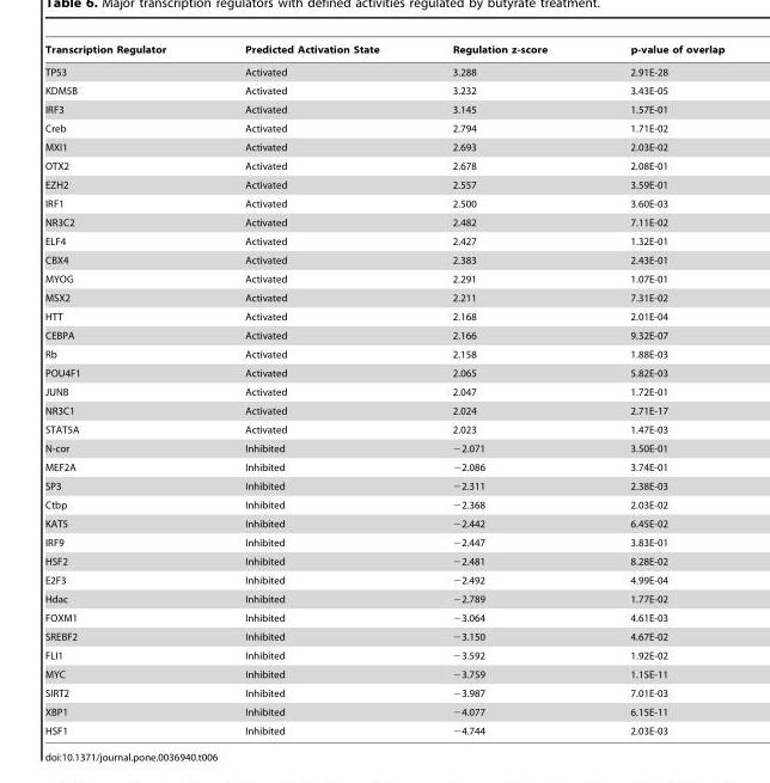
<table><thead><tr><td>Transcription Regulator</td><td>Predicted Activation State</td><td>Regulation z-score</td><td>p-value of overlap</td></tr></thead><tbody><tr><td>TP53</td><td>Activated</td><td>3.288</td><td>2.91E-28</td></tr><tr><td>KDM5B</td><td>Activated</td><td>3.232</td><td>3.43E-05</td></tr><tr><td>IRF3</td><td>Activated</td><td>3.145</td><td>1.57E-01</td></tr><tr><td>Creb</td><td>Activated</td><td>2.794</td><td>1.71E-02</td></tr><tr><td>MXI1</td><td>Activated</td><td>2.693</td><td>2.03E-02</td></tr><tr><td>OTX2</td><td>Activated</td><td>2.678</td><td>2.08E-01</td></tr><tr><td>EZH2</td><td>Activated</td><td>2.557</td><td>3.59E-01</td></tr><tr><td>IRF1</td><td>Activated</td><td>2.500</td><td>3.60E-03</td></tr><tr><td>NR3C2</td><td>Activated</td><td>2.482</td><td>7.11E-02</td></tr><tr><td>ELF4</td><td>Activated</td><td>2.427</td><td>1.32E-01</td></tr><tr><td>CBX4</td><td>Activated</td><td>2.383</td><td>2.43E-01</td></tr><tr><td>MYOG</td><td>Activated</td><td>2.291</td><td>1.07E-01</td></tr><tr><td>MSX2</td><td>Activated</td><td>2.211</td><td>7.31E-02</td></tr><tr><td>HTT</td><td>Activated</td><td>2.168</td><td>2.01E-04</td></tr><tr><td>CEBPA</td><td>Activated</td><td>2.166</td><td>9.32E-07</td></tr><tr><td>Rb</td><td>Activated</td><td>2.158</td><td>1.88E-03</td></tr><tr><td>POU4F1</td><td>Activated</td><td>2.065</td><td>5.82E-03</td></tr><tr><td>JUNB</td><td>Activated</td><td>2.047</td><td>1.72E-01</td></tr><tr><td>NR3C1</td><td>Activated</td><td>2.024</td><td>2.71E-17</td></tr><tr><td>STAT5A</td><td>Activated</td><td>2.023</td><td>1.47E-03</td></tr><tr><td>N-cor</td><td>Inhibited</td><td>−2.071</td><td>3.50E-01</td></tr><tr><td>MEF2A</td><td>Inhibited</td><td>−2.086</td><td>3.74E-01</td></tr><tr><td>SP3</td><td>Inhibited</td><td>−2.311</td><td>2.38E-03</td></tr><tr><td>Ctbp</td><td>Inhibited</td><td>−2.368</td><td>2.03E-02</td></tr><tr><td>KAT5</td><td>Inhibited</td><td>−2.442</td><td>6.45E-02</td></tr><tr><td>IRF9</td><td>Inhibited</td><td>−2.447</td><td>3.83E-01</td></tr><tr><td>HSF2</td><td>Inhibited</td><td>−2.481</td><td>8.28E-02</td></tr><tr><td>E2F3</td><td>Inhibited</td><td>−2.492</td><td>4.99E-04</td></tr><tr><td>Hdac</td><td>Inhibited</td><td>−2.789</td><td>1.77E-02</td></tr><tr><td>FOXM1</td><td>Inhibited</td><td>−3.064</td><td>4.61E-03</td></tr><tr><td>SREBF2</td><td>Inhibited</td><td>−3.150</td><td>4.67E-02</td></tr><tr><td>FLI1</td><td>Inhibited</td><td>−3.592</td><td>1.92E-02</td></tr><tr><td>MYC</td><td>Inhibited</td><td>−3.759</td><td>1.15E-11</td></tr><tr><td>SIRT2</td><td>Inhibited</td><td>−3.987</td><td>7.01E-03</td></tr><tr><td>XBP1</td><td>Inhibited</td><td>−4.077</td><td>6.15E-11</td></tr><tr><td>HSF1</td><td>Inhibited</td><td>−4.744</td><td>2.03E-03</td></tr></tbody></table>